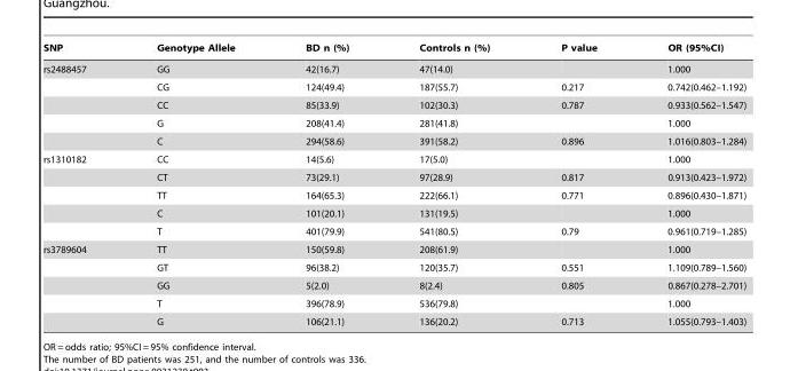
<table><thead><tr><td>SNP</td><td>Genotype Allele</td><td>BD n (%)</td><td>Controls n (%)</td><td>P value</td><td>OR (95%CI)</td></tr></thead><tbody><tr><td rowspan="5">rs2488457</td><td>GG</td><td>42(16.7)</td><td>47(14.0)</td><td></td><td>1.000</td></tr><tr><td>CG</td><td>124(49.4)</td><td>187(55.7)</td><td>0.217</td><td>0.742(0.462–1.192)</td></tr><tr><td>CC</td><td>85(33.9)</td><td>102(30.3)</td><td>0.787</td><td>0.933(0.562–1.547)</td></tr><tr><td>G</td><td>208(41.4)</td><td>281(41.8)</td><td></td><td>1.000</td></tr><tr><td>C</td><td>294(58.6)</td><td>391(58.2)</td><td>0.896</td><td>1.016(0.803–1.284)</td></tr><tr><td rowspan="5">rs1310182</td><td>CC</td><td>14(5.6)</td><td>17(5.0)</td><td></td><td>1.000</td></tr><tr><td>CT</td><td>73(29.1)</td><td>97(28.9)</td><td>0.817</td><td>0.913(0.423–1.972)</td></tr><tr><td>TT</td><td>164(65.3)</td><td>222(66.1)</td><td>0.771</td><td>0.896(0.430–1.871)</td></tr><tr><td>C</td><td>101(20.1)</td><td>131(19.5)</td><td></td><td>1.000</td></tr><tr><td>T</td><td>401(79.9)</td><td>541(80.5)</td><td>0.79</td><td>0.961(0.719–1.285)</td></tr><tr><td rowspan="5">rs3789604</td><td>TT</td><td>150(59.8)</td><td>208(61.9)</td><td></td><td>1.000</td></tr><tr><td>GT</td><td>96(38.2)</td><td>120(35.7)</td><td>0.551</td><td>1.109(0.789–1.560)</td></tr><tr><td>GG</td><td>5(2.0)</td><td>8(2.4)</td><td>0.805</td><td>0.867(0.278–2.701)</td></tr><tr><td>T</td><td>396(78.9)</td><td>536(79.8)</td><td></td><td>1.000</td></tr><tr><td>G</td><td>106(21.1)</td><td>136(20.2)</td><td>0.713</td><td>1.055(0.793–1.403)</td></tr></tbody></table>